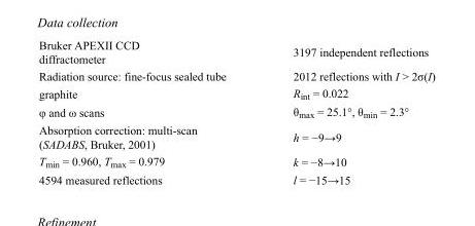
<table><tbody><tr><td>Bruker APEXII CCD diffractometer</td><td>3197 independent reflections</td></tr><tr><td>Radiation source: fine-focus sealed tube</td><td>2012 reflections with I &gt; 2σ(I)</td></tr><tr><td>graphite</td><td>R<sub>int</sub> = 0.022</td></tr><tr><td>φ and ω scans</td><td>θ<sub>max</sub> = 25.1°, θ<sub>min</sub> = 2.3°</td></tr><tr><td>Absorption correction: multi-scan (SADABS, Bruker, 2001)</td><td>h = −9→9</td></tr><tr><td>T<sub>min</sub> = 0.960, T<sub>max</sub> = 0.979</td><td>k = −8→10</td></tr><tr><td>4594 measured reflections</td><td>l = −15→15</td></tr></tbody></table>